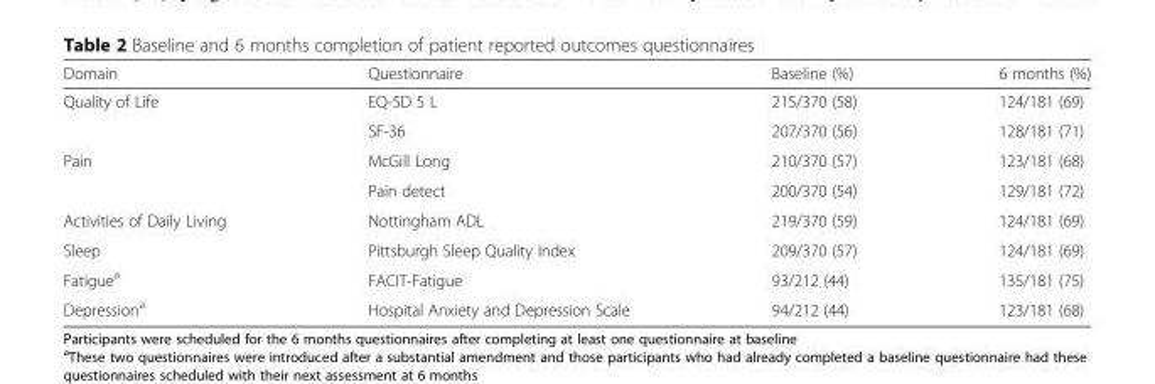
<table><thead><tr><td>Domain</td><td>Questionnaire</td><td>Baseline (%)</td><td>6 months (%)</td></tr></thead><tbody><tr><td rowspan="2">Quality of Life</td><td>EQ-5D 5 L</td><td>215/370 (58)</td><td>124/181 (69)</td></tr><tr><td>SF-36</td><td>207/370 (56)</td><td>128/181 (71)</td></tr><tr><td rowspan="2">Pain</td><td>McGill Long</td><td>210/370 (57)</td><td>123/181 (68)</td></tr><tr><td>Pain detect</td><td>200/370 (54)</td><td>129/181 (72)</td></tr><tr><td>Activities of Daily Living</td><td>Nottingham ADL</td><td>219/370 (59)</td><td>124/181 (69)</td></tr><tr><td>Sleep</td><td>Pittsburgh Sleep Quality Index</td><td>209/370 (57)</td><td>124/181 (69)</td></tr><tr><td>Fatigue<sup>a</sup></td><td>FACIT-Fatigue</td><td>93/212 (44)</td><td>135/181 (75)</td></tr><tr><td>Depression<sup>a</sup></td><td>Hospital Anxiety and Depression Scale</td><td>94/212 (44)</td><td>123/181 (68)</td></tr></tbody></table>